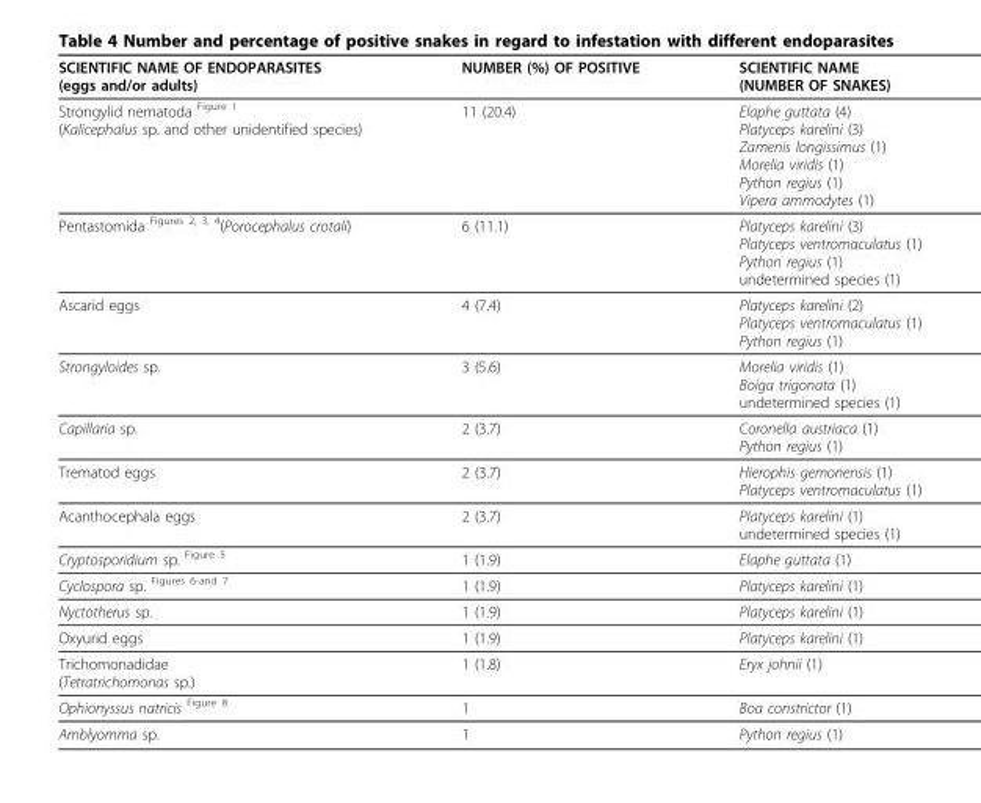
<table><thead><tr><td>SCIENTIFIC NAME OF ENDOPARASITES (eggs and/or adults)</td><td>NUMBER (%) OF POSITIVE</td><td>SCIENTIFIC NAME (NUMBER OF SNAKES)</td></tr></thead><tbody><tr><td>Strongylid nematoda <sup>Figure 1</sup> (Kalicephalus sp. and other unidentified species)</td><td>11 (20.4)</td><td>Elaphe guttata (4) Platyceps karelini (3) Zamenis longissimus (1) Morelia viridis (1) Python regius (1) Vipera ammodytes (1)</td></tr><tr><td>Pentastomida <sup>Figures 2, 3, 4</sup>(Porocephalus crotali)</td><td>6 (11.1)</td><td>Platyceps karelini (3) Platyceps ventromaculatus (1) Python regius (1) undetermined species (1)</td></tr><tr><td>Ascarid eggs</td><td>4 (7.4)</td><td>Platyceps karelini (2) Platyceps ventromaculatus (1) Python regius (1)</td></tr><tr><td>Strongyloides sp.</td><td>3 (5.6)</td><td>Morelia viridis (1) Boiga trigonata (1) undetermined species (1)</td></tr><tr><td>Capillaria sp.</td><td>2 (3.7)</td><td>Coronella austriaca (1) Python regius (1)</td></tr><tr><td>Trematod eggs</td><td>2 (3.7)</td><td>Hierophis gemonensis (1) Platyceps ventromaculatus (1)</td></tr><tr><td>Acanthocephala eggs</td><td>2 (3.7)</td><td>Platyceps karelini (1) undetermined species (1)</td></tr><tr><td>Cryptosporidium sp. <sup>Figure 5</sup></td><td>1 (1.9)</td><td>Elaphe guttata (1)</td></tr><tr><td>Cyclospora sp. <sup>Figures 6-and 7</sup></td><td>1 (1.9)</td><td>Platyceps karelini (1)</td></tr><tr><td>Nyctotherus sp.</td><td>1 (1.9)</td><td>Platyceps karelini (1)</td></tr><tr><td>Oxyurid eggs</td><td>1 (1.9)</td><td>Platyceps karelini (1)</td></tr><tr><td>Trichomonadidae (Tetratrichomonas sp.)</td><td>1 (1.8)</td><td>Eryx johnii (1)</td></tr><tr><td>Ophionyssus natricis <sup>Figure 8</sup></td><td>1</td><td>Boa constrictor (1)</td></tr><tr><td>Amblyomma sp.</td><td>1</td><td>Python regius (1)</td></tr></tbody></table>